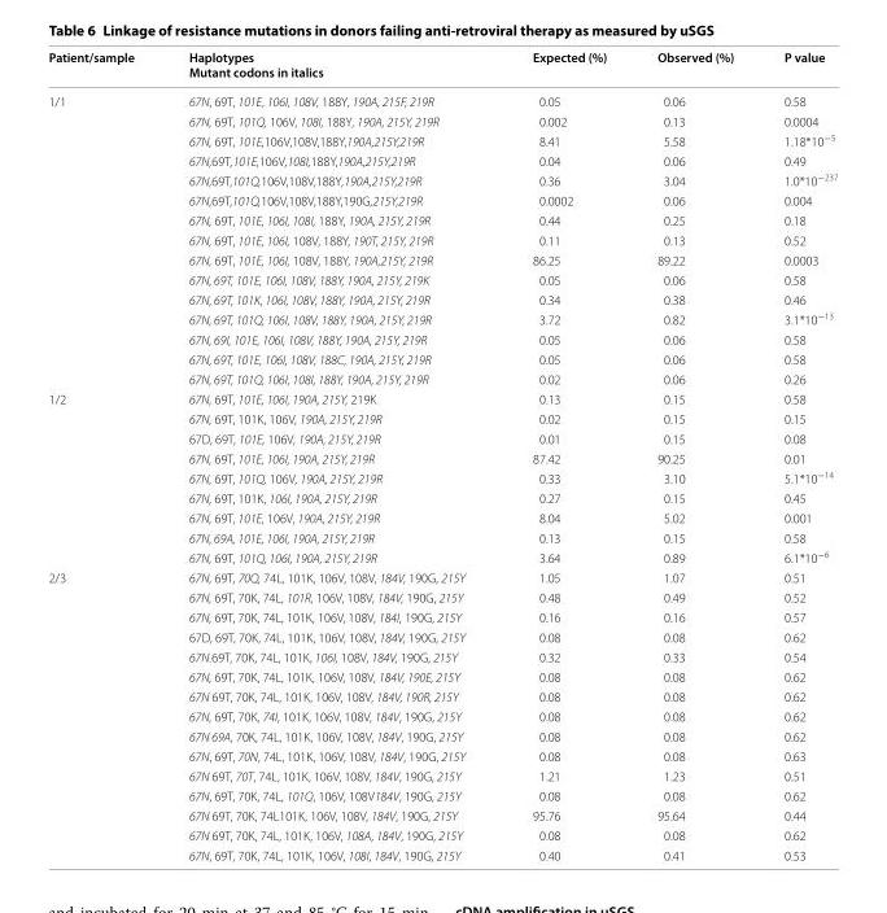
<table><thead><tr><td>Patient/sample</td><td>Haplotypes Mutant codons in italics</td><td>Expected (%)</td><td>Observed (%)</td><td>P value</td></tr></thead><tbody><tr><td rowspan="15">1/1</td><td>67N, 69T, 101E, 106I, 108V, 188Y, 190A, 215F, 219R</td><td>0.05</td><td>0.06</td><td>0.58</td></tr><tr><td>67N, 69T, 101Q, 106V, 108I, 188Y, 190A, 215Y, 219R</td><td>0.002</td><td>0.13</td><td>0.0004</td></tr><tr><td>67N, 69T, 101E,106V,108V,188Y,190A,215Y,219R</td><td>8.41</td><td>5.58</td><td>1.18*10<sup>−5</sup></td></tr><tr><td>67N,69T,101E,106V,108I,188Y,190A,215Y,219R</td><td>0.04</td><td>0.06</td><td>0.49</td></tr><tr><td>67N,69T,101Q,106V,108V,188Y,190A,215Y,219R</td><td>0.36</td><td>3.04</td><td>1.0*10<sup>−237</sup></td></tr><tr><td>67N,69T,101Q,106V,108V,188Y,190G,215Y,219R</td><td>0.0002</td><td>0.06</td><td>0.004</td></tr><tr><td>67N, 69T, 101E, 106I, 108I, 188Y, 190A, 215Y, 219R</td><td>0.44</td><td>0.25</td><td>0.18</td></tr><tr><td>67N, 69T, 101E, 106I, 108V, 188Y, 190T, 215Y, 219R</td><td>0.11</td><td>0.13</td><td>0.52</td></tr><tr><td>67N, 69T, 101E, 106I, 108V, 188Y, 190A,215Y, 219R</td><td>86.25</td><td>89.22</td><td>0.0003</td></tr><tr><td>67N, 69T, 101E, 106I, 108V, 188Y, 190A, 215Y, 219K</td><td>0.05</td><td>0.06</td><td>0.58</td></tr><tr><td>67N, 69T, 101K, 106I, 108V, 188Y, 190A, 215Y, 219R</td><td>0.34</td><td>0.38</td><td>0.46</td></tr><tr><td>67N, 69T, 101Q, 106I, 108V, 188Y, 190A, 215Y, 219R</td><td>3.72</td><td>0.82</td><td>3.1*10<sup>−13</sup></td></tr><tr><td>67N, 69I, 101E, 106I, 108V, 188Y, 190A, 215Y, 219R</td><td>0.05</td><td>0.06</td><td>0.58</td></tr><tr><td>67N, 69T, 101E, 106I, 108V, 188C, 190A, 215Y, 219R</td><td>0.05</td><td>0.06</td><td>0.58</td></tr><tr><td>67N, 69T, 101Q, 106I, 108I, 188Y, 190A, 215Y, 219R</td><td>0.02</td><td>0.06</td><td>0.26</td></tr><tr><td rowspan="9">1/2</td><td>67N, 69T, 101E, 106I, 190A, 215Y, 219K</td><td>0.13</td><td>0.15</td><td>0.58</td></tr><tr><td>67N, 69T, 101K, 106V, 190A, 215Y, 219R</td><td>0.02</td><td>0.15</td><td>0.15</td></tr><tr><td>67D, 69T, 101E, 106V, 190A, 215Y, 219R</td><td>0.01</td><td>0.15</td><td>0.08</td></tr><tr><td>67N, 69T, 101E, 106I, 190A, 215Y, 219R</td><td>87.42</td><td>90.25</td><td>0.01</td></tr><tr><td>67N, 69T, 101Q, 106V, 190A, 215Y, 219R</td><td>0.33</td><td>3.10</td><td>5.1*10<sup>−14</sup></td></tr><tr><td>67N, 69T, 101K, 106I, 190A, 215Y, 219R</td><td>0.27</td><td>0.15</td><td>0.45</td></tr><tr><td>67N, 69T, 101E, 106V, 190A, 215Y, 219R</td><td>8.04</td><td>5.02</td><td>0.001</td></tr><tr><td>67N, 69A, 101E, 106I, 190A, 215Y, 219R</td><td>0.13</td><td>0.15</td><td>0.58</td></tr><tr><td>67N, 69T, 101Q, 106I, 190A, 215Y, 219R</td><td>3.64</td><td>0.89</td><td>6.1*10<sup>−6</sup></td></tr><tr><td rowspan="15">2/3</td><td>67N, 69T, 70Q, 74L, 101K, 106V, 108V, 184V, 190G, 215Y</td><td>1.05</td><td>1.07</td><td>0.51</td></tr><tr><td>67N, 69T, 70K, 74L, 101R, 106V, 108V, 184V, 190G, 215Y</td><td>0.48</td><td>0.49</td><td>0.52</td></tr><tr><td>67N, 69T, 70K, 74L, 101K, 106V, 108V, 184I, 190G, 215Y</td><td>0.16</td><td>0.16</td><td>0.57</td></tr><tr><td>67D, 69T, 70K, 74L, 101K, 106V, 108V, 184V, 190G, 215Y</td><td>0.08</td><td>0.08</td><td>0.62</td></tr><tr><td>67N.69T, 70K, 74L, 101K, 106I, 108V, 184V, 190G, 215Y</td><td>0.32</td><td>0.33</td><td>0.54</td></tr><tr><td>67N, 69T, 70K, 74L, 101K, 106V, 108V, 184V, 190E, 215Y</td><td>0.08</td><td>0.08</td><td>0.62</td></tr><tr><td>67N 69T, 70K, 74L, 101K, 106V, 108V, 184V, 190R, 215Y</td><td>0.08</td><td>0.08</td><td>0.62</td></tr><tr><td>67N, 69T, 70K, 74I, 101K, 106V, 108V, 184V, 190G, 215Y</td><td>0.08</td><td>0.08</td><td>0.62</td></tr><tr><td>67N 69A, 70K, 74L, 101K, 106V, 108V, 184V, 190G, 215Y</td><td>0.08</td><td>0.08</td><td>0.62</td></tr><tr><td>67N, 69T, 70N, 74L, 101K, 106V, 108V, 184V, 190G, 215Y</td><td>0.08</td><td>0.08</td><td>0.63</td></tr><tr><td>67N 69T, 70T, 74L, 101K, 106V, 108V, 184V, 190G, 215Y</td><td>1.21</td><td>1.23</td><td>0.51</td></tr><tr><td>67N, 69T, 70K, 74L, 101Q, 106V, 108V184V, 190G, 215Y</td><td>0.08</td><td>0.08</td><td>0.62</td></tr><tr><td>67N 69T, 70K, 74L101K, 106V, 108V, 184V, 190G, 215Y</td><td>95.76</td><td>95.64</td><td>0.44</td></tr><tr><td>67N 69T, 70K, 74L, 101K, 106V, 108A, 184V, 190G, 215Y</td><td>0.08</td><td>0.08</td><td>0.62</td></tr><tr><td>67N, 69T, 70K, 74L, 101K, 106V, 108I, 184V, 190G, 215Y</td><td>0.40</td><td>0.41</td><td>0.53</td></tr></tbody></table>